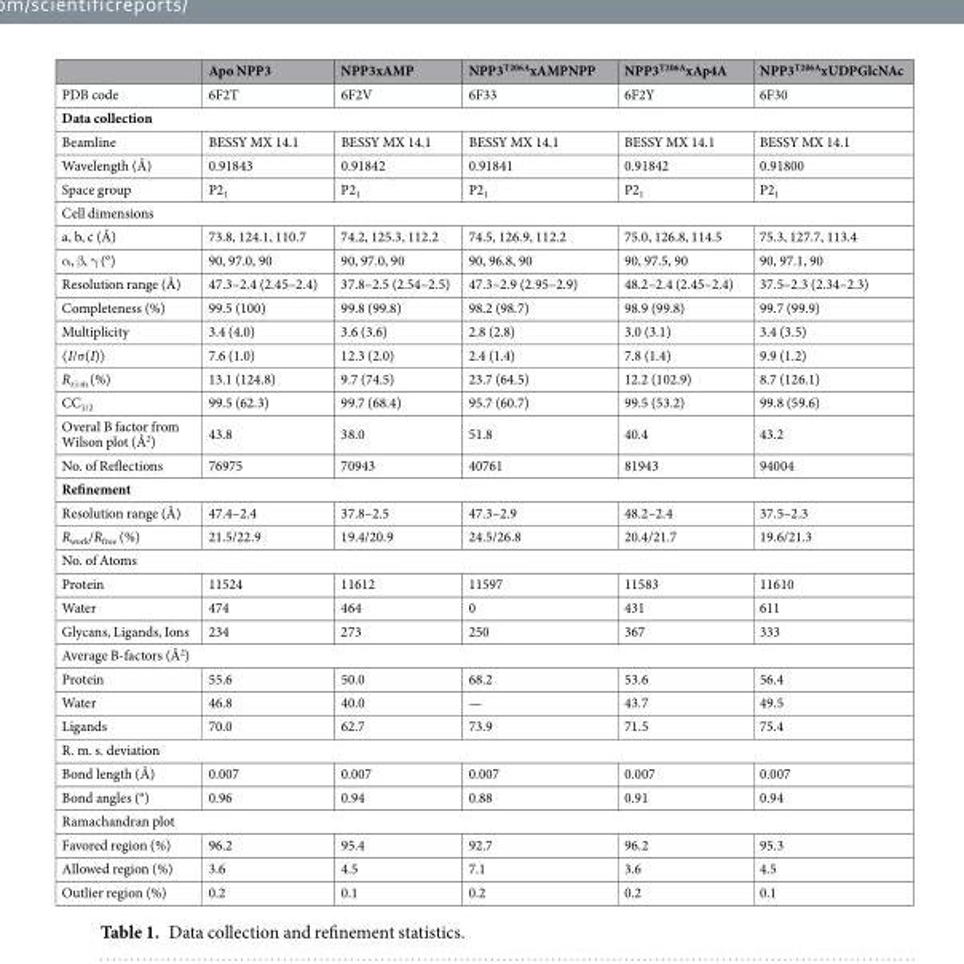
<table><thead><tr><td></td><td>Apo NPP3</td><td>NPP3xAMP</td><td>NPP3<sup>T206A</sup>xAMPNPP</td><td>NPP3<sup>T206A</sup>xAp4A</td><td>NPP3<sup>T206A</sup>xUDPGlcNAc</td></tr></thead><tbody><tr><td>PDB code</td><td>6F2T</td><td>6F2V</td><td>6F33</td><td>6F2Y</td><td>6F30</td></tr><tr><td colspan="6">Data collection</td></tr><tr><td>Beamline</td><td>BESSY MX 14.1</td><td>BESSY MX 14.1</td><td>BESSY MX 14.1</td><td>BESSY MX 14.1</td><td>BESSY MX 14.1</td></tr><tr><td>Wavelength (Å)</td><td>0.91843</td><td>0.91842</td><td>0.91841</td><td>0.91842</td><td>0.91800</td></tr><tr><td>Space group</td><td>P2<sub>1</sub></td><td>P2<sub>1</sub></td><td>P2<sub>1</sub></td><td>P2<sub>1</sub></td><td>P2<sub>1</sub></td></tr><tr><td colspan="6">Cell dimensions</td></tr><tr><td>a, b, c (Å)</td><td>73.8, 124.1, 110.7</td><td>74.2, 125.3, 112.2</td><td>74.5, 126.9, 112.2</td><td>75.0, 126.8, 114.5</td><td>75.3, 127.7, 113.4</td></tr><tr><td>α, β, γ (°)</td><td>90, 97.0, 90</td><td>90, 97.0, 90</td><td>90, 96.8, 90</td><td>90, 97.5, 90</td><td>90, 97.1, 90</td></tr><tr><td>Resolution range (Å)</td><td>47.3–2.4 (2.45–2.4)</td><td>37.8–2.5 (2.54–2.5)</td><td>47.3–2.9 (2.95–2.9)</td><td>48.2–2.4 (2.45–2.4)</td><td>37.5–2.3 (2.34–2.3)</td></tr><tr><td>Completeness (%)</td><td>99.5 (100)</td><td>99.8 (99.8)</td><td>98.2 (98.7)</td><td>98.9 (99.8)</td><td>99.7 (99.9)</td></tr><tr><td>Multiplicity</td><td>3.4 (4.0)</td><td>3.6 (3.6)</td><td>2.8 (2.8)</td><td>3.0 (3.1)</td><td>3.4 (3.5)</td></tr><tr><td>〈I/σ(I)〉</td><td>7.6 (1.0)</td><td>12.3 (2.0)</td><td>2.4 (1.4)</td><td>7.8 (1.4)</td><td>9.9 (1.2)</td></tr><tr><td>R<sub>r.i.m.</sub>(%)</td><td>13.1 (124.8)</td><td>9.7 (74.5)</td><td>23.7 (64.5)</td><td>12.2 (102.9)</td><td>8.7 (126.1)</td></tr><tr><td>CC<sub>1/2</sub></td><td>99.5 (62.3)</td><td>99.7 (68.4)</td><td>95.7 (60.7)</td><td>99.5 (53.2)</td><td>99.8 (59.6)</td></tr><tr><td>Overal B factor from Wilson plot (Å<sup>2</sup>)</td><td>43.8</td><td>38.0</td><td>51.8</td><td>40.4</td><td>43.2</td></tr><tr><td>No. of Reflections</td><td>76975</td><td>70943</td><td>40761</td><td>81943</td><td>94004</td></tr><tr><td colspan="6">Refinement</td></tr><tr><td>Resolution range (Å)</td><td>47.4–2.4</td><td>37.8–2.5</td><td>47.3–2.9</td><td>48.2–2.4</td><td>37.5–2.3</td></tr><tr><td>R<sub>work</sub>/R<sub>free</sub> (%)</td><td>21.5/22.9</td><td>19.4/20.9</td><td>24.5/26.8</td><td>20.4/21.7</td><td>19.6/21.3</td></tr><tr><td colspan="6">No. of Atoms</td></tr><tr><td>Protein</td><td>11524</td><td>11612</td><td>11597</td><td>11583</td><td>11610</td></tr><tr><td>Water</td><td>474</td><td>464</td><td>0</td><td>431</td><td>611</td></tr><tr><td>Glycans, Ligands, Ions</td><td>234</td><td>273</td><td>250</td><td>367</td><td>333</td></tr><tr><td colspan="6">Average B-factors (Å<sup>2</sup>)</td></tr><tr><td>Protein</td><td>55.6</td><td>50.0</td><td>68.2</td><td>53.6</td><td>56.4</td></tr><tr><td>Water</td><td>46.8</td><td>40.0</td><td>—</td><td>43.7</td><td>49.5</td></tr><tr><td>Ligands</td><td>70.0</td><td>62.7</td><td>73.9</td><td>71.5</td><td>75.4</td></tr><tr><td colspan="6">R. m. s. deviation</td></tr><tr><td>Bond length (Å)</td><td>0.007</td><td>0.007</td><td>0.007</td><td>0.007</td><td>0.007</td></tr><tr><td>Bond angles (°)</td><td>0.96</td><td>0.94</td><td>0.88</td><td>0.91</td><td>0.94</td></tr><tr><td colspan="6">Ramachandran plot</td></tr><tr><td>Favored region (%)</td><td>96.2</td><td>95.4</td><td>92.7</td><td>96.2</td><td>95.3</td></tr><tr><td>Allowed region (%)</td><td>3.6</td><td>4.5</td><td>7.1</td><td>3.6</td><td>4.5</td></tr><tr><td>Outlier region (%)</td><td>0.2</td><td>0.1</td><td>0.2</td><td>0.2</td><td>0.1</td></tr></tbody></table>